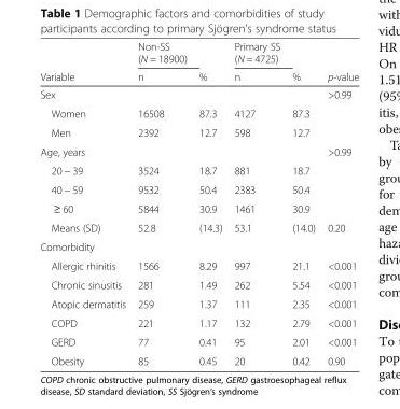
<table><thead><tr><td rowspan="2">Variable</td><td rowspan="2">Non-SS (N = 18900) n</td><td rowspan="2">%</td><td rowspan="2">Primary SS (N = 4725) n</td><td rowspan="2">%</td><td rowspan="2">p-value</td></tr><tr></tr></thead><tbody><tr><td>Sex</td><td></td><td></td><td></td><td></td><td>&gt;0.99</td></tr><tr><td>Women</td><td>16508</td><td>87.3</td><td>4127</td><td>87.3</td><td></td></tr><tr><td>Men</td><td>2392</td><td>12.7</td><td>598</td><td>12.7</td><td></td></tr><tr><td>Age, years</td><td></td><td></td><td></td><td></td><td>&gt;0.99</td></tr><tr><td>20 − 39</td><td>3524</td><td>18.7</td><td>881</td><td>18.7</td><td></td></tr><tr><td>40 − 59</td><td>9532</td><td>50.4</td><td>2383</td><td>50.4</td><td></td></tr><tr><td>≥ 60</td><td>5844</td><td>30.9</td><td>1461</td><td>30.9</td><td></td></tr><tr><td>Means (SD)</td><td>52.8</td><td>(14.3)</td><td>53.1</td><td>(14.0)</td><td>0.20</td></tr><tr><td colspan="6">Comorbidity</td></tr><tr><td>Allergic rhinitis</td><td>1566</td><td>8.29</td><td>997</td><td>21.1</td><td>&lt;0.001</td></tr><tr><td>Chronic sinusitis</td><td>281</td><td>1.49</td><td>262</td><td>5.54</td><td>&lt;0.001</td></tr><tr><td>Atopic dermatitis</td><td>259</td><td>1.37</td><td>111</td><td>2.35</td><td>&lt;0.001</td></tr><tr><td>COPD</td><td>221</td><td>1.17</td><td>132</td><td>2.79</td><td>&lt;0.001</td></tr><tr><td>GERD</td><td>77</td><td>0.41</td><td>95</td><td>2.01</td><td>&lt;0.001</td></tr><tr><td>Obesity</td><td>85</td><td>0.45</td><td>20</td><td>0.42</td><td>0.90</td></tr></tbody></table>